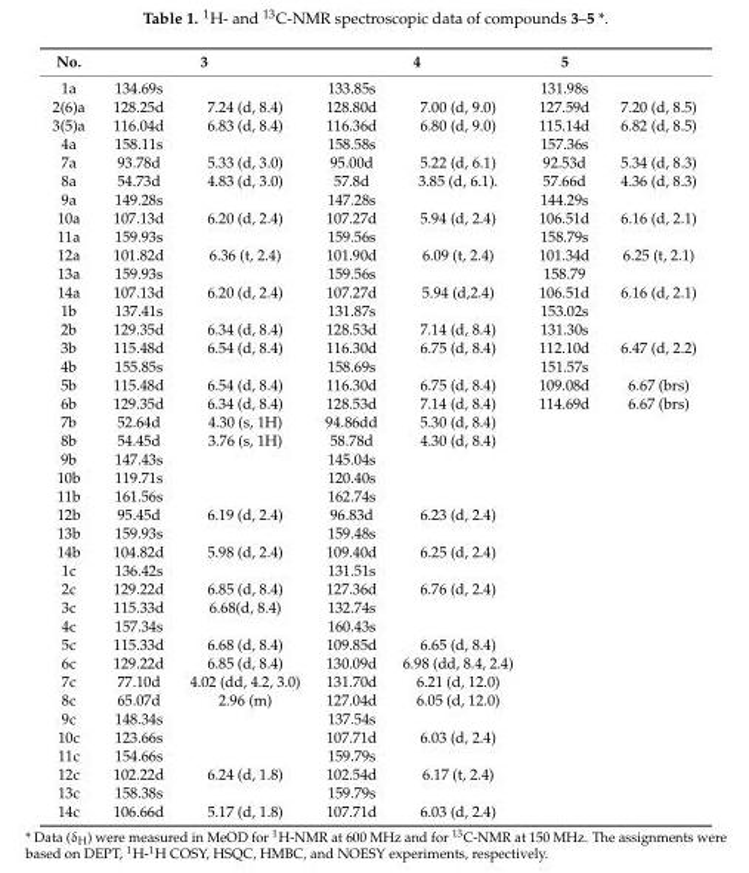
<table><thead><tr><td rowspan="2">No. 1a</td><td colspan="2">3</td><td colspan="2">4</td><td rowspan="2">5 131.98s</td><td rowspan="2"></td></tr><tr><td>134.69s</td><td></td><td>133.85s</td><td></td></tr></thead><tbody><tr><td>2(6)a</td><td>128.25d</td><td>7.24 (d, 8.4)</td><td>128.80d</td><td>7.00 (d, 9.0)</td><td>127.59d</td><td>7.20 (d, 8.5)</td></tr><tr><td>3(5)a</td><td>116.04d</td><td>6.83 (d, 8.4)</td><td>116.36d</td><td>6.80 (d, 9.0)</td><td>115.14d</td><td>6.82 (d, 8.5)</td></tr><tr><td>4a</td><td>158.11s</td><td></td><td>158.58s</td><td></td><td>157.36s</td><td></td></tr><tr><td>7a</td><td>93.78d</td><td>5.33 (d, 3.0)</td><td>95.00d</td><td>5.22 (d, 6.1)</td><td>92.53d</td><td>5.34 (d, 8.3)</td></tr><tr><td>8a</td><td>54.73d</td><td>4.83 (d, 3.0)</td><td>57.8d</td><td>3.85 (d, 6.1).</td><td>57.66d</td><td>4.36 (d, 8.3)</td></tr><tr><td>9a</td><td>149.28s</td><td></td><td>147.28s</td><td></td><td>144.29s</td><td></td></tr><tr><td>10a</td><td>107.13d</td><td>6.20 (d, 2.4)</td><td>107.27d</td><td>5.94 (d, 2.4)</td><td>106.51d</td><td>6.16 (d, 2.1)</td></tr><tr><td>11a</td><td>159.93s</td><td></td><td>159.56s</td><td></td><td>158.79s</td><td></td></tr><tr><td>12a</td><td>101.82d</td><td>6.36 (t, 2.4)</td><td>101.90d</td><td>6.09 (t, 2.4)</td><td>101.34d</td><td>6.25 (t, 2.1)</td></tr><tr><td>13a</td><td>159.93s</td><td></td><td>159.56s</td><td></td><td>158.79</td><td></td></tr><tr><td>14a</td><td>107.13d</td><td>6.20 (d, 2.4)</td><td>107.27d</td><td>5.94 (d,2.4)</td><td>106.51d</td><td>6.16 (d, 2.1)</td></tr><tr><td>1b</td><td>137.41s</td><td></td><td>131.87s</td><td></td><td>153.02s</td><td></td></tr><tr><td>2b</td><td>129.35d</td><td>6.34 (d, 8.4)</td><td>128.53d</td><td>7.14 (d, 8.4)</td><td>131.30s</td><td></td></tr><tr><td>3b</td><td>115.48d</td><td>6.54 (d, 8.4)</td><td>116.30d</td><td>6.75 (d, 8.4)</td><td>112.10d</td><td>6.47 (d, 2.2)</td></tr><tr><td>4b</td><td>155.85s</td><td></td><td>158.69s</td><td></td><td>151.57s</td><td></td></tr><tr><td>5b</td><td>115.48d</td><td>6.54 (d, 8.4)</td><td>116.30d</td><td>6.75 (d, 8.4)</td><td>109.08d</td><td>6.67 (brs)</td></tr><tr><td>6b</td><td>129.35d</td><td>6.34 (d, 8.4)</td><td>128.53d</td><td>7.14 (d, 8.4)</td><td>114.69d</td><td>6.67 (brs)</td></tr><tr><td>7b</td><td>52.64d</td><td>4.30 (s, 1H)</td><td>94.86dd</td><td>5.30 (d, 8.4)</td><td></td><td></td></tr><tr><td>8b</td><td>54.45d</td><td>3.76 (s, 1H)</td><td>58.78d</td><td>4.30 (d, 8.4)</td><td></td><td></td></tr><tr><td>9b</td><td>147.43s</td><td></td><td>145.04s</td><td></td><td></td><td></td></tr><tr><td>10b</td><td>119.71s</td><td></td><td>120.40s</td><td></td><td></td><td></td></tr><tr><td>11b</td><td>161.56s</td><td></td><td>162.74s</td><td></td><td></td><td></td></tr><tr><td>12b</td><td>95.45d</td><td>6.19 (d, 2.4)</td><td>96.83d</td><td>6.23 (d, 2.4)</td><td></td><td></td></tr><tr><td>13b</td><td>159.93s</td><td></td><td>159.48s</td><td></td><td></td><td></td></tr><tr><td>14b</td><td>104.82d</td><td>5.98 (d, 2.4)</td><td>109.40d</td><td>6.25 (d, 2.4)</td><td></td><td></td></tr><tr><td>1c</td><td>136.42s</td><td></td><td>131.51s</td><td></td><td></td><td></td></tr><tr><td>2c</td><td>129.22d</td><td>6.85 (d, 8.4)</td><td>127.36d</td><td>6.76 (d, 2.4)</td><td></td><td></td></tr><tr><td>3c</td><td>115.33d</td><td>6.68(d, 8.4)</td><td>132.74s</td><td></td><td></td><td></td></tr><tr><td>4c</td><td>157.34s</td><td></td><td>160.43s</td><td></td><td></td><td></td></tr><tr><td>5c</td><td>115.33d</td><td>6.68 (d, 8.4)</td><td>109.85d</td><td>6.65 (d, 8.4)</td><td></td><td></td></tr><tr><td>6c</td><td>129.22d</td><td>6.85 (d, 8.4)</td><td>130.09d</td><td>6.98 (dd, 8.4, 2.4)</td><td></td><td></td></tr><tr><td>7c</td><td>77.10d</td><td>4.02 (dd, 4.2, 3.0)</td><td>131.70d</td><td>6.21 (d, 12.0)</td><td></td><td></td></tr><tr><td>8c</td><td>65.07d</td><td>2.96 (m)</td><td>127.04d</td><td>6.05 (d, 12.0)</td><td></td><td></td></tr><tr><td>9c</td><td>148.34s</td><td></td><td>137.54s</td><td></td><td></td><td></td></tr><tr><td>10c</td><td>123.66s</td><td></td><td>107.71d</td><td>6.03 (d, 2.4)</td><td></td><td></td></tr><tr><td>11c</td><td>154.66s</td><td></td><td>159.79s</td><td></td><td></td><td></td></tr><tr><td>12c</td><td>102.22d</td><td>6.24 (d, 1.8)</td><td>102.54d</td><td>6.17 (t, 2.4)</td><td></td><td></td></tr><tr><td>13c</td><td>158.38s</td><td></td><td>159.79s</td><td></td><td></td><td></td></tr><tr><td>14c</td><td>106.66d</td><td>5.17 (d, 1.8)</td><td>107.71d</td><td>6.03 (d, 2.4)</td><td></td><td></td></tr></tbody></table>